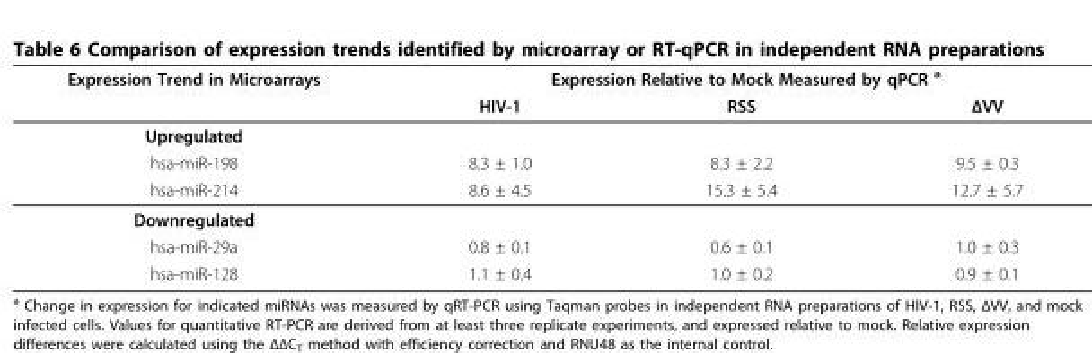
<table><thead><tr><td rowspan="2">Expression Trend in Microarrays</td><td colspan="3">Expression Relative to Mock Measured by qPCR <sup>a</sup></td></tr><tr><td>HIV-1</td><td>RSS</td><td>ΔVV</td></tr></thead><tbody><tr><td colspan="4">Upregulated</td></tr><tr><td>hsa-miR-198</td><td>8.3 ± 1.0</td><td>8.3 ± 2.2</td><td>9.5 ± 0.3</td></tr><tr><td>hsa-miR-214</td><td>8.6 ± 4.5</td><td>15.3 ± 5.4</td><td>12.7 ± 5.7</td></tr><tr><td colspan="4">Downregulated</td></tr><tr><td>hsa-miR-29a</td><td>0.8 ± 0.1</td><td>0.6 ± 0.1</td><td>1.0 ± 0.3</td></tr><tr><td>hsa-miR-128</td><td>1.1 ± 0.4</td><td>1.0 ± 0.2</td><td>0.9 ± 0.1</td></tr></tbody></table>